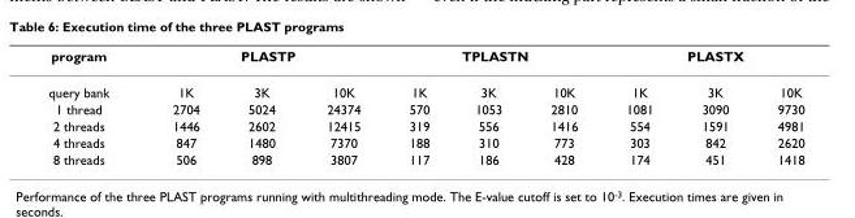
<table><thead><tr><td rowspan="2">program query bank</td><td colspan="3">PLASTP</td><td colspan="3">TPLASTN</td><td colspan="3">PLASTX</td></tr><tr><td>1K</td><td>3K</td><td>10K</td><td>1K</td><td>3K</td><td>10K</td><td>1K</td><td>3K</td><td>10K</td></tr></thead><tbody><tr><td>1 thread</td><td>2704</td><td>5024</td><td>24374</td><td>570</td><td>1053</td><td>2810</td><td>1081</td><td>3090</td><td>9730</td></tr><tr><td>2 threads</td><td>1446</td><td>2602</td><td>12415</td><td>319</td><td>556</td><td>1416</td><td>554</td><td>1591</td><td>4981</td></tr><tr><td>4 threads</td><td>847</td><td>1480</td><td>7370</td><td>188</td><td>310</td><td>773</td><td>303</td><td>842</td><td>2620</td></tr><tr><td>8 threads</td><td>506</td><td>898</td><td>3807</td><td>117</td><td>186</td><td>428</td><td>174</td><td>451</td><td>1418</td></tr></tbody></table>